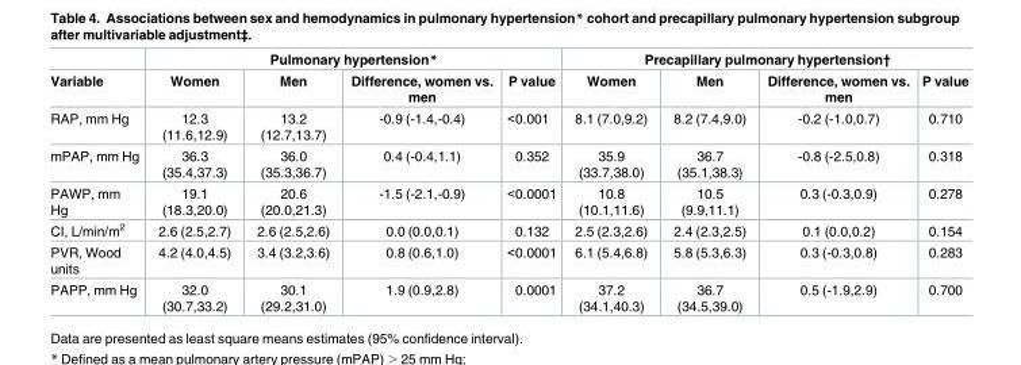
<table><thead><tr><td rowspan="2">Variable</td><td colspan="4">Pulmonary hypertension*</td><td colspan="4">Precapillary pulmonary hypertension†</td></tr><tr><td>Women</td><td>Men</td><td>Difference, women vs. men</td><td>P value</td><td>Women</td><td>Men</td><td>Difference, women vs. men</td><td>P value</td></tr></thead><tbody><tr><td>RAP, mm Hg</td><td>12.3 (11.6,12.9)</td><td>13.2 (12.7,13.7)</td><td>-0.9 (-1.4,-0.4)</td><td>&lt;0.001</td><td>8.1 (7.0,9.2)</td><td>8.2 (7.4,9.0)</td><td>-0.2 (-1.0,0.7)</td><td>0.710</td></tr><tr><td>mPAP, mm Hg</td><td>36.3 (35.4,37.3)</td><td>36.0 (35.3,36.7)</td><td>0.4 (-0.4,1.1)</td><td>0.352</td><td>35.9 (33.7,38.0)</td><td>36.7 (35.1,38.3)</td><td>-0.8 (-2.5,0.8)</td><td>0.318</td></tr><tr><td>PAWP, mm Hg</td><td>19.1 (18.3,20.0)</td><td>20.6 (20.0,21.3)</td><td>-1.5 (-2.1,-0.9)</td><td>&lt;0.0001</td><td>10.8 (10.1,11.6)</td><td>10.5 (9.9,11.1)</td><td>0.3 (-0.3,0.9)</td><td>0.278</td></tr><tr><td>CI, L/min/m<sup>2</sup></td><td>2.6 (2.5,2.7)</td><td>2.6 (2.5,2.6)</td><td>0.0 (0.0,0.1)</td><td>0.132</td><td>2.5 (2.3,2.6)</td><td>2.4 (2.3,2.5)</td><td>0.1 (0.0,0.2)</td><td>0.154</td></tr><tr><td>PVR, Wood units</td><td>4.2 (4.0,4.5)</td><td>3.4 (3.2,3.6)</td><td>0.8 (0.6,1.0)</td><td>&lt;0.0001</td><td>6.1 (5.4,6.8)</td><td>5.8 (5.3,6.3)</td><td>0.3 (-0.3,0.8)</td><td>0.283</td></tr><tr><td>PAPP, mm Hg</td><td>32.0 (30.7,33.2)</td><td>30.1 (29.2,31.0)</td><td>1.9 (0.9,2.8)</td><td>0.0001</td><td>37.2 (34.1,40.3)</td><td>36.7 (34.5,39.0)</td><td>0.5 (-1.9,2.9)</td><td>0.700</td></tr></tbody></table>